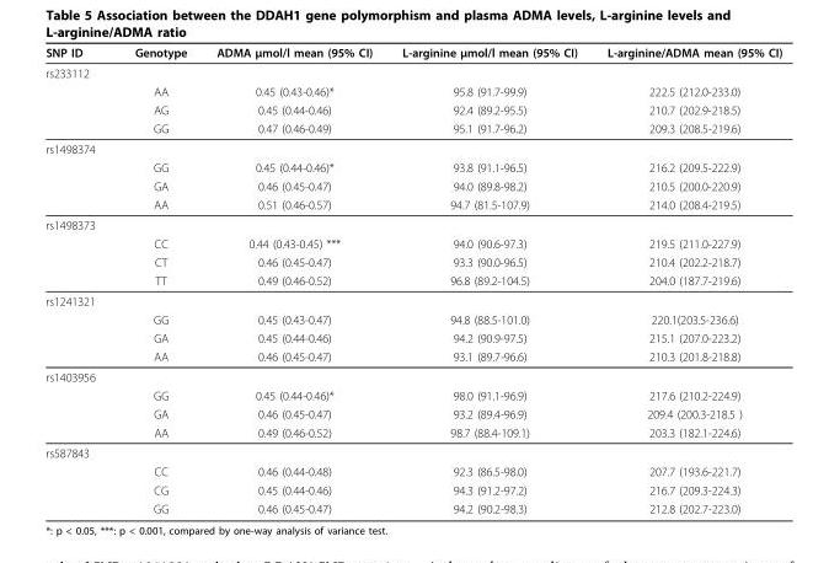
<table><thead><tr><td>SNP ID</td><td>Genotype</td><td>ADMA μmol/l mean (95% CI)</td><td>L-arginine μmol/l mean (95% CI)</td><td>L-arginine/ADMA mean (95% CI)</td></tr></thead><tbody><tr><td colspan="5">rs233112</td></tr><tr><td></td><td>AA</td><td>0.45 (0.43-0.46)*</td><td>95.8 (91.7-99.9)</td><td>222.5 (212.0-233.0)</td></tr><tr><td></td><td>AG</td><td>0.45 (0.44-0.46)</td><td>92.4 (89.2-95.5)</td><td>210.7 (202.9-218.5)</td></tr><tr><td></td><td>GG</td><td>0.47 (0.46-0.49)</td><td>95.1 (91.7-96.2)</td><td>209.3 (208.5-219.6)</td></tr><tr><td colspan="5">rs1498374</td></tr><tr><td></td><td>GG</td><td>0.45 (0.44-0.46)*</td><td>93.8 (91.1-96.5)</td><td>216.2 (209.5-222.9)</td></tr><tr><td></td><td>GA</td><td>0.46 (0.45-0.47)</td><td>94.0 (89.8-98.2)</td><td>210.5 (200.0-220.9)</td></tr><tr><td></td><td>AA</td><td>0.51 (0.46-0.57)</td><td>94.7 (81.5-107.9)</td><td>214.0 (208.4-219.5)</td></tr><tr><td colspan="5">rs1498373</td></tr><tr><td></td><td>CC</td><td>0.44 (0.43-0.45) ***</td><td>94.0 (90.6-97.3)</td><td>219.5 (211.0-227.9)</td></tr><tr><td></td><td>CT</td><td>0.46 (0.45-0.47)</td><td>93.3 (90.0-96.5)</td><td>210.4 (202.2-218.7)</td></tr><tr><td></td><td>TT</td><td>0.49 (0.46-0.52)</td><td>96.8 (89.2-104.5)</td><td>204.0 (187.7-219.6)</td></tr><tr><td colspan="5">rs1241321</td></tr><tr><td></td><td>GG</td><td>0.45 (0.43-0.47)</td><td>94.8 (88.5-101.0)</td><td>220.1(203.5-236.6)</td></tr><tr><td></td><td>GA</td><td>0.45 (0.44-0.46)</td><td>94.2 (90.9-97.5)</td><td>215.1 (207.0-223.2)</td></tr><tr><td></td><td>AA</td><td>0.46 (0.45-0.47)</td><td>93.1 (89.7-96.6)</td><td>210.3 (201.8-218.8)</td></tr><tr><td colspan="5">rs1403956</td></tr><tr><td></td><td>GG</td><td>0.45 (0.44-0.46)*</td><td>98.0 (91.1-96.9)</td><td>217.6 (210.2-224.9)</td></tr><tr><td></td><td>GA</td><td>0.46 (0.45-0.47)</td><td>93.2 (89.4-96.9)</td><td>209.4 (200.3-218.5 )</td></tr><tr><td></td><td>AA</td><td>0.49 (0.46-0.52)</td><td>98.7 (88.4-109.1)</td><td>203.3 (182.1-224.6)</td></tr><tr><td colspan="5">rs587843</td></tr><tr><td></td><td>CC</td><td>0.46 (0.44-0.48)</td><td>92.3 (86.5-98.0)</td><td>207.7 (193.6-221.7)</td></tr><tr><td></td><td>CG</td><td>0.45 (0.44-0.46)</td><td>94.3 (91.2-97.2)</td><td>216.7 (209.3-224.3)</td></tr><tr><td></td><td>GG</td><td>0.46 (0.45-0.47)</td><td>94.2 (90.2-98.3)</td><td>212.8 (202.7-223.0)</td></tr></tbody></table>